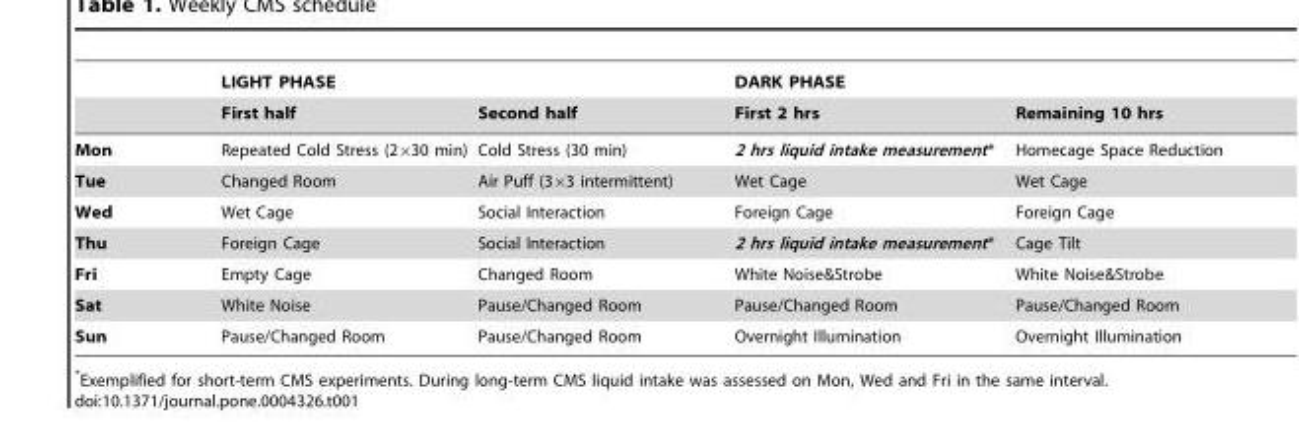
<table><thead><tr><td rowspan="2"></td><td rowspan="2">LIGHT PHASE First half</td><td rowspan="2">Second half</td><td rowspan="2">DARK PHASE First 2 hrs</td><td rowspan="2">Remaining 10 hrs</td></tr><tr></tr></thead><tbody><tr><td>Mon</td><td>Repeated Cold Stress (2×30 min)</td><td>Cold Stress (30 min)</td><td>2 hrs liquid intake measurement*</td><td>Homecage Space Reduction</td></tr><tr><td>Tue</td><td>Changed Room</td><td>Air Puff (3×3 intermittent)</td><td>Wet Cage</td><td>Wet Cage</td></tr><tr><td>Wed</td><td>Wet Cage</td><td>Social Interaction</td><td>Foreign Cage</td><td>Foreign Cage</td></tr><tr><td>Thu</td><td>Foreign Cage</td><td>Social Interaction</td><td>2 hrs liquid intake measurement*</td><td>Cage Tilt</td></tr><tr><td>Fri</td><td>Empty Cage</td><td>Changed Room</td><td>White Noise&amp;Strobe</td><td>White Noise&amp;Strobe</td></tr><tr><td>Sat</td><td>White Noise</td><td>Pause/Changed Room</td><td>Pause/Changed Room</td><td>Pause/Changed Room</td></tr><tr><td>Sun</td><td>Pause/Changed Room</td><td>Pause/Changed Room</td><td>Overnight Illumination</td><td>Overnight Illumination</td></tr></tbody></table>